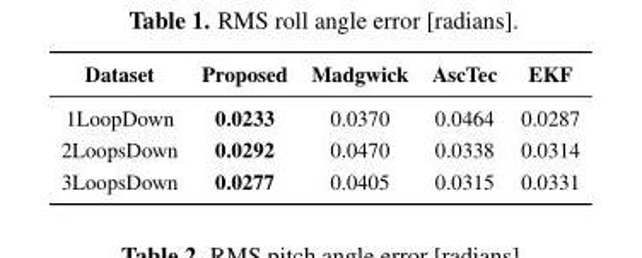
<table><thead><tr><td>Dataset</td><td>Proposed</td><td>Madgwick</td><td>AscTec</td><td>EKF</td></tr></thead><tbody><tr><td>1LoopDown</td><td>0.0233</td><td>0.0370</td><td>0.0464</td><td>0.0287</td></tr><tr><td>2LoopsDown</td><td>0.0292</td><td>0.0470</td><td>0.0338</td><td>0.0314</td></tr><tr><td>3LoopsDown</td><td>0.0277</td><td>0.0405</td><td>0.0315</td><td>0.0331</td></tr></tbody></table>